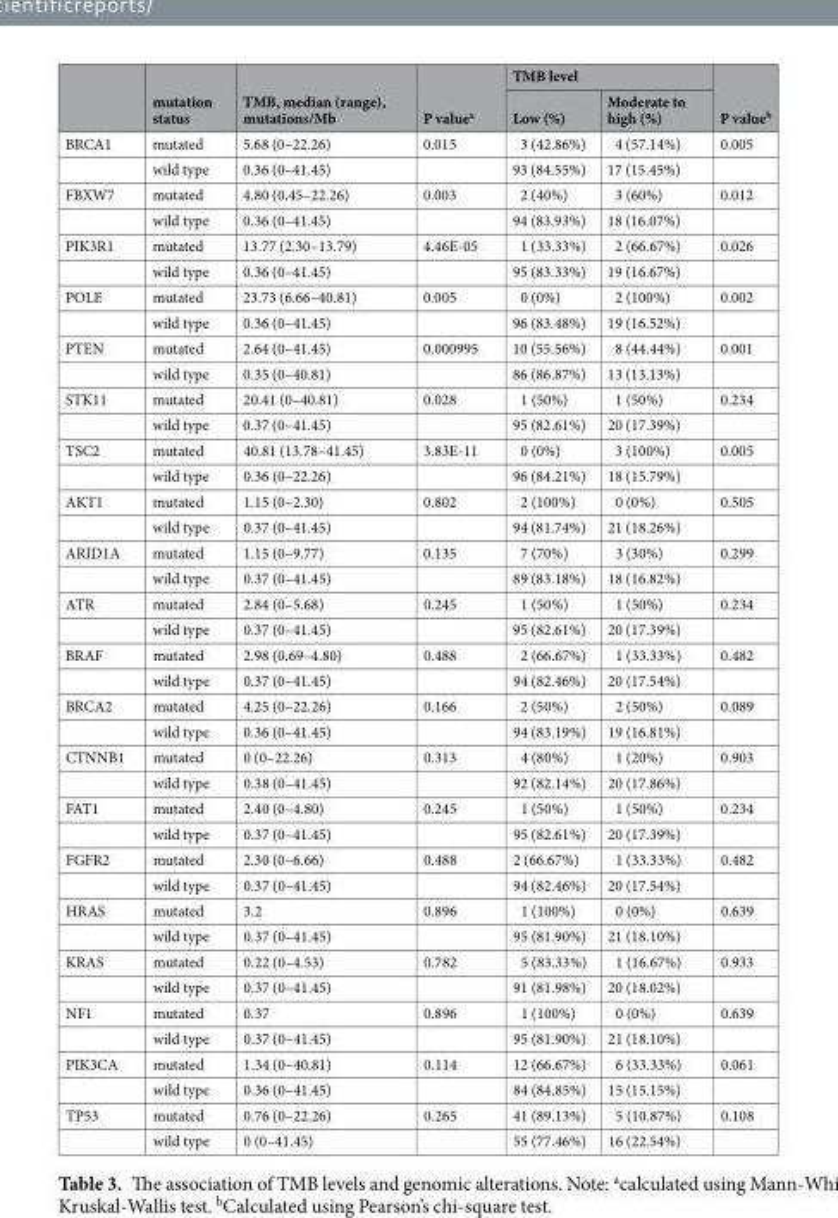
<table><thead><tr><td rowspan="2"></td><td rowspan="2">mutation status</td><td rowspan="2">TMB, median (range), mutations/Mb</td><td rowspan="2">P value<sup>a</sup></td><td colspan="2">TMB level</td><td rowspan="2">P value<sup>b</sup></td></tr><tr><td>Low (%)</td><td>Moderate to high (%)</td></tr></thead><tbody><tr><td rowspan="2">BRCA1</td><td>mutated</td><td>5.68 (0–22.26)</td><td>0.015</td><td>3 (42.86%)</td><td>4 (57.14%)</td><td>0.005</td></tr><tr><td>wild type</td><td>0.36 (0–41.45)</td><td></td><td>93 (84.55%)</td><td>17 (15.45%)</td><td></td></tr><tr><td rowspan="2">FBXW7</td><td>mutated</td><td>4.80 (0.45–22.26)</td><td>0.003</td><td>2 (40%)</td><td>3 (60%)</td><td>0.012</td></tr><tr><td>wild type</td><td>0.36 (0–41.45)</td><td></td><td>94 (83.93%)</td><td>18 (16.07%)</td><td></td></tr><tr><td rowspan="2">PIK3R1</td><td>mutated</td><td>13.77 (2.30–13.79)</td><td>4.46E-05</td><td>1 (33.33%)</td><td>2 (66.67%)</td><td>0.026</td></tr><tr><td>wild type</td><td>0.36 (0–41.45)</td><td></td><td>95 (83.33%)</td><td>19 (16.67%)</td><td></td></tr><tr><td rowspan="2">POLE</td><td>mutated</td><td>23.73 (6.66–40.81)</td><td>0.005</td><td>0 (0%)</td><td>2 (100%)</td><td>0.002</td></tr><tr><td>wild type</td><td>0.36 (0–41.45)</td><td></td><td>96 (83.48%)</td><td>19 (16.52%)</td><td></td></tr><tr><td rowspan="2">PTEN</td><td>mutated</td><td>2.64 (0–41.45)</td><td>0.000995</td><td>10 (55.56%)</td><td>8 (44.44%)</td><td>0.001</td></tr><tr><td>wild type</td><td>0.35 (0–40.81)</td><td></td><td>86 (86.87%)</td><td>13 (13.13%)</td><td></td></tr><tr><td rowspan="2">STK11</td><td>mutated</td><td>20.41 (0–40.81)</td><td>0.028</td><td>1 (50%)</td><td>1 (50%)</td><td>0.234</td></tr><tr><td>wild type</td><td>0.37 (0–41.45)</td><td></td><td>95 (82.61%)</td><td>20 (17.39%)</td><td></td></tr><tr><td rowspan="2">TSC2</td><td>mutated</td><td>40.81 (13.78–41.45)</td><td>3.83E-11</td><td>0 (0%)</td><td>3 (100%)</td><td>0.005</td></tr><tr><td>wild type</td><td>0.36 (0–22.26)</td><td></td><td>96 (84.21%)</td><td>18 (15.79%)</td><td></td></tr><tr><td rowspan="2">AKT1</td><td>mutated</td><td>1.15 (0–2.30)</td><td>0.802</td><td>2 (100%)</td><td>0 (0%)</td><td>0.505</td></tr><tr><td>wild type</td><td>0.37 (0–41.45)</td><td></td><td>94 (81.74%)</td><td>21 (18.26%)</td><td></td></tr><tr><td rowspan="2">ARID1A</td><td>mutated</td><td>1.15 (0–9.77)</td><td>0.135</td><td>7 (70%)</td><td>3 (30%)</td><td>0.299</td></tr><tr><td>wild type</td><td>0.37 (0–41.45)</td><td></td><td>89 (83.18%)</td><td>18 (16.82%)</td><td></td></tr><tr><td rowspan="2">ATR</td><td>mutated</td><td>2.84 (0–5.68)</td><td>0.245</td><td>1 (50%)</td><td>1 (50%)</td><td>0.234</td></tr><tr><td>wild type</td><td>0.37 (0–41.45)</td><td></td><td>95 (82.61%)</td><td>20 (17.39%)</td><td></td></tr><tr><td rowspan="2">BRAF</td><td>mutated</td><td>2.98 (0.69–4.80)</td><td>0.488</td><td>2 (66.67%)</td><td>1 (33.33%)</td><td>0.482</td></tr><tr><td>wild type</td><td>0.37 (0–41.45)</td><td></td><td>94 (82.46%)</td><td>20 (17.54%)</td><td></td></tr><tr><td rowspan="2">BRCA2</td><td>mutated</td><td>4.25 (0–22.26)</td><td>0.166</td><td>2 (50%)</td><td>2 (50%)</td><td>0.089</td></tr><tr><td>wild type</td><td>0.36 (0–41.45)</td><td></td><td>94 (83.19%)</td><td>19 (16.81%)</td><td></td></tr><tr><td rowspan="2">CTNNB1</td><td>mutated</td><td>0 (0–22.26)</td><td>0.313</td><td>4 (80%)</td><td>1 (20%)</td><td>0.903</td></tr><tr><td>wild type</td><td>0.38 (0–41.45)</td><td></td><td>92 (82.14%)</td><td>20 (17.86%)</td><td></td></tr><tr><td rowspan="2">FAT1</td><td>mutated</td><td>2.40 (0–4.80)</td><td>0.245</td><td>1 (50%)</td><td>1 (50%)</td><td>0.234</td></tr><tr><td>wild type</td><td>0.37 (0–41.45)</td><td></td><td>95 (82.61%)</td><td>20 (17.39%)</td><td></td></tr><tr><td rowspan="2">FGFR2</td><td>mutated</td><td>2.30 (0–6.66)</td><td>0.488</td><td>2 (66.67%)</td><td>1 (33.33%)</td><td>0.482</td></tr><tr><td>wild type</td><td>0.37 (0–41.45)</td><td></td><td>94 (82.46%)</td><td>20 (17.54%)</td><td></td></tr><tr><td rowspan="2">HRAS</td><td>mutated</td><td>3.2</td><td>0.896</td><td>1 (100%)</td><td>0 (0%)</td><td>0.639</td></tr><tr><td>wild type</td><td>0.37 (0–41.45)</td><td></td><td>95 (81.90%)</td><td>21 (18.10%)</td><td></td></tr><tr><td rowspan="2">KRAS</td><td>mutated</td><td>0.22 (0–4.53)</td><td>0.782</td><td>5 (83.33%)</td><td>1 (16.67%)</td><td>0.933</td></tr><tr><td>wild type</td><td>0.37 (0–41.45)</td><td></td><td>91 (81.98%)</td><td>20 (18.02%)</td><td></td></tr><tr><td rowspan="2">NF1</td><td>mutated</td><td>0.37</td><td>0.896</td><td>1 (100%)</td><td>0 (0%)</td><td>0.639</td></tr><tr><td>wild type</td><td>0.37 (0–41.45)</td><td></td><td>95 (81.90%)</td><td>21 (18.10%)</td><td></td></tr><tr><td rowspan="2">PIK3CA</td><td>mutated</td><td>1.34 (0–40.81)</td><td>0.114</td><td>12 (66.67%)</td><td>6 (33.33%)</td><td>0.061</td></tr><tr><td>wild type</td><td>0.36 (0–41.45)</td><td></td><td>84 (84.85%)</td><td>15 (15.15%)</td><td></td></tr><tr><td rowspan="2">TP53</td><td>mutated</td><td>0.76 (0–22.26)</td><td>0.265</td><td>41 (89.13%)</td><td>5 (10.87%)</td><td>0.108</td></tr><tr><td>wild type</td><td>0 (0–41.45)</td><td></td><td>55 (77.46%)</td><td>16 (22.54%)</td><td></td></tr></tbody></table>